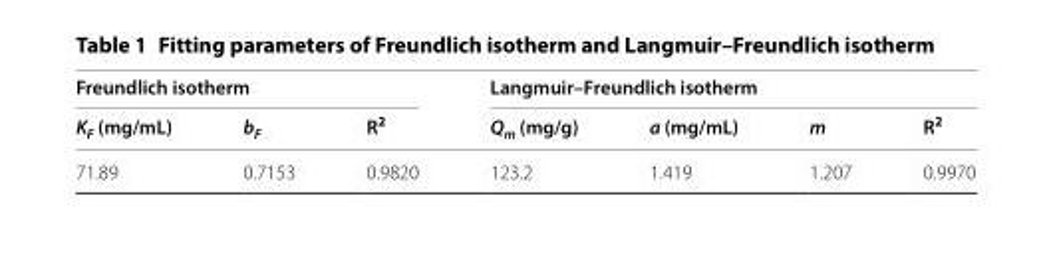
<table><thead><tr><td colspan="3">Freundlich isotherm</td><td colspan="4">Langmuir–Freundlich isotherm</td></tr><tr><td>K<sub>F</sub> (mg/mL)</td><td>b<sub>F</sub></td><td>R<sup>2</sup></td><td>Q<sub>m</sub> (mg/g)</td><td>a (mg/mL)</td><td>m</td><td>R<sup>2</sup></td></tr></thead><tbody><tr><td>71.89</td><td>0.7153</td><td>0.9820</td><td>123.2</td><td>1.419</td><td>1.207</td><td>0.9970</td></tr></tbody></table>